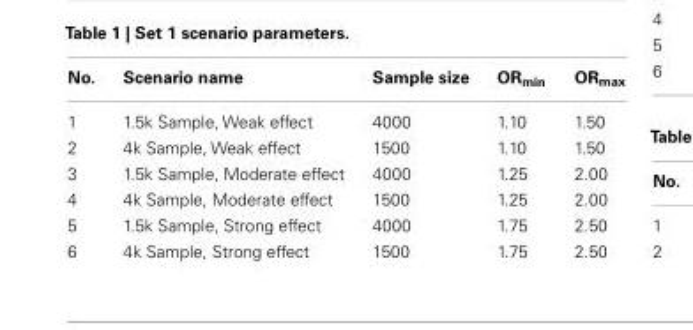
<table><thead><tr><td>No.</td><td>Scenario name</td><td>Sample size</td><td>OR<sub>min</sub></td><td>OR<sub>max</sub></td></tr></thead><tbody><tr><td>1</td><td>1.5k Sample, Weak effect</td><td>4000</td><td>1.10</td><td>1.50</td></tr><tr><td>2</td><td>4k Sample, Weak effect</td><td>1500</td><td>1.10</td><td>1.50</td></tr><tr><td>3</td><td>1.5k Sample, Moderate effect</td><td>4000</td><td>1.25</td><td>2.00</td></tr><tr><td>4</td><td>4k Sample, Moderate effect</td><td>1500</td><td>1.25</td><td>2.00</td></tr><tr><td>5</td><td>1.5k Sample, Strong effect</td><td>4000</td><td>1.75</td><td>2.50</td></tr><tr><td>6</td><td>4k Sample, Strong effect</td><td>1500</td><td>1.75</td><td>2.50</td></tr></tbody></table>